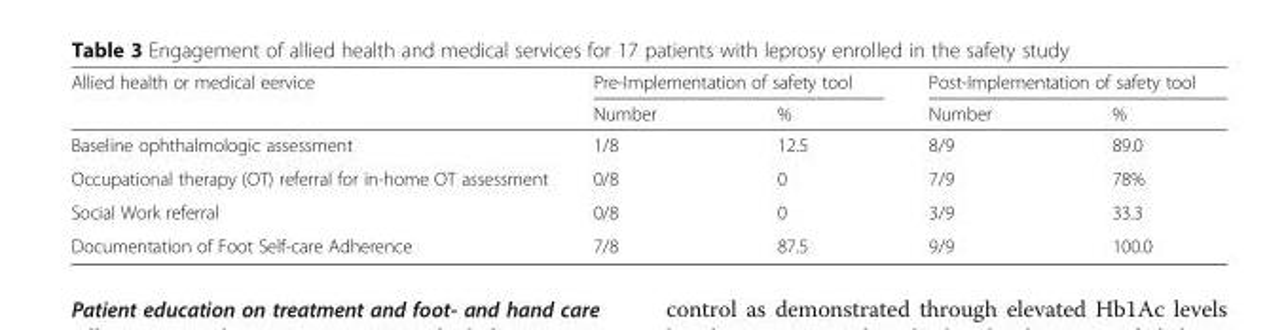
<table><thead><tr><td rowspan="2">Allied health or medical eervice</td><td colspan="2">Pre-Implementation of safety tool</td><td colspan="2">Post-Implementation of safety tool</td></tr><tr><td>Number</td><td>%</td><td>Number</td><td>%</td></tr></thead><tbody><tr><td>Baseline ophthalmologic assessment</td><td>1/8</td><td>12.5</td><td>8/9</td><td>89.0</td></tr><tr><td>Occupational therapy (OT) referral for in-home OT assessment</td><td>0/8</td><td>0</td><td>7/9</td><td>78%</td></tr><tr><td>Social Work referral</td><td>0/8</td><td>0</td><td>3/9</td><td>33.3</td></tr><tr><td>Documentation of Foot Self-care Adherence</td><td>7/8</td><td>87.5</td><td>9/9</td><td>100.0</td></tr></tbody></table>